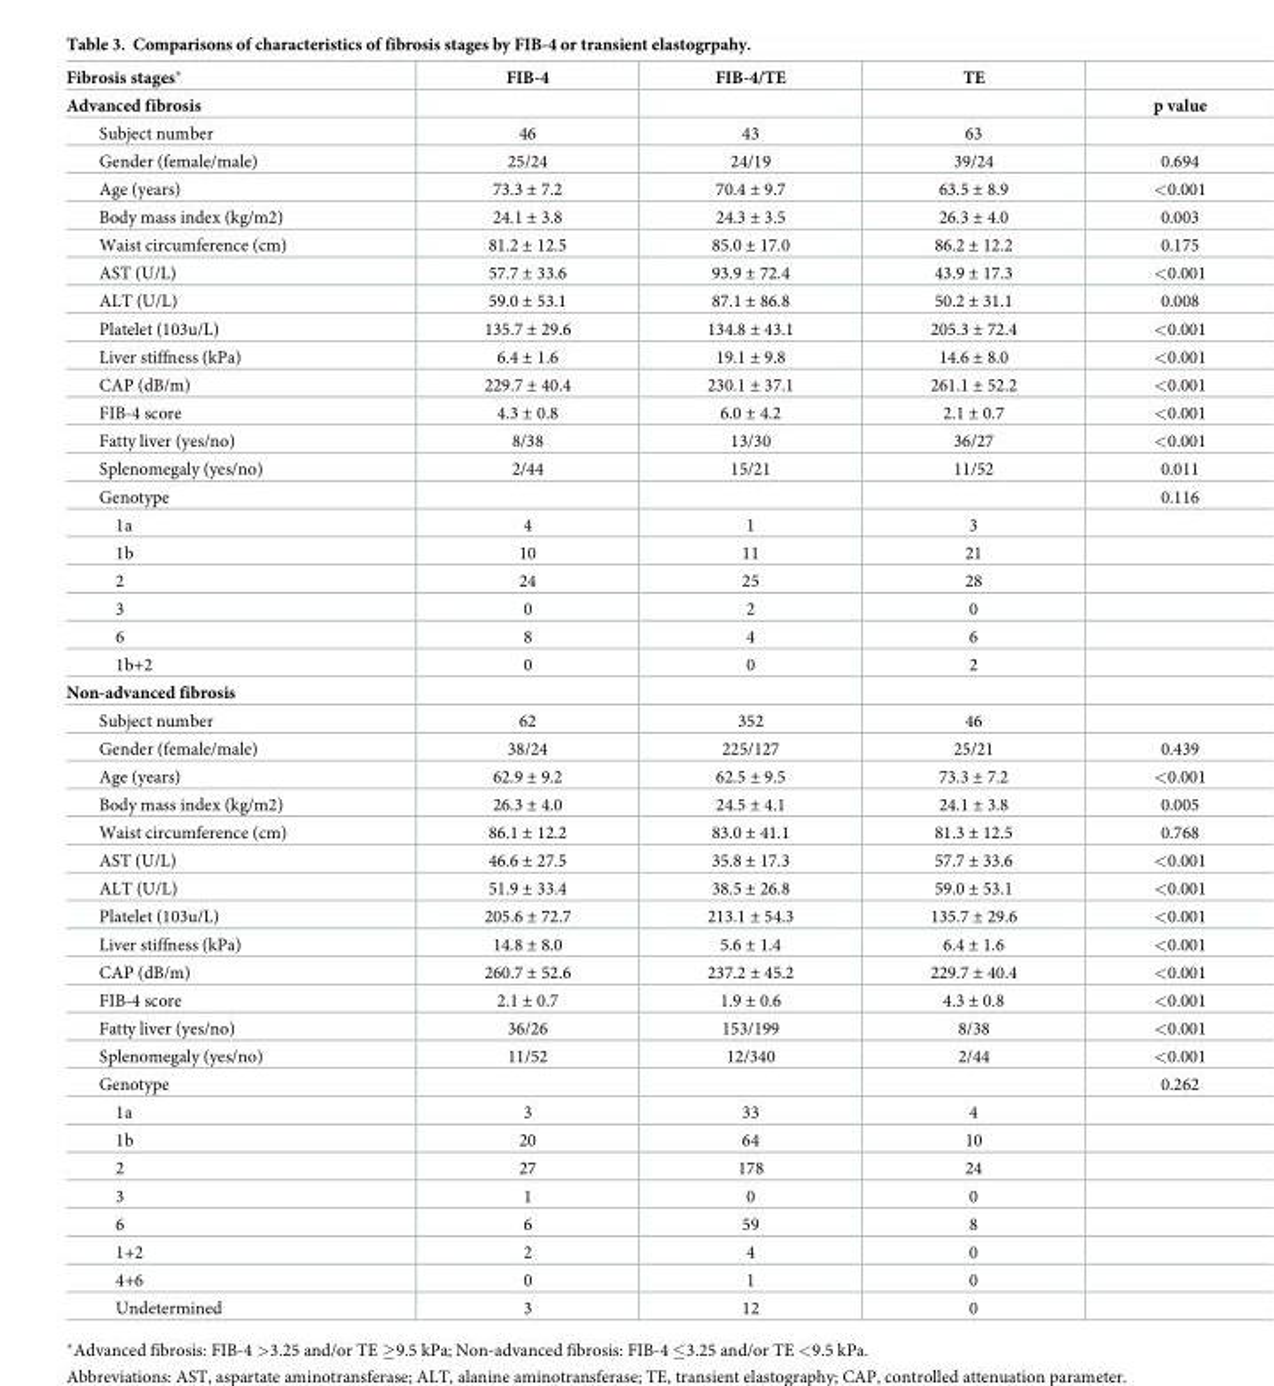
<table><thead><tr><td rowspan="2">Fibrosis stages* Advanced fibrosis</td><td rowspan="2">FIB-4</td><td rowspan="2">FIB-4/TE</td><td rowspan="2">TE</td><td rowspan="2">p value</td></tr><tr></tr></thead><tbody><tr><td>Subject number</td><td>46</td><td>43</td><td>63</td><td></td></tr><tr><td>Gender (female/male)</td><td>25/24</td><td>24/19</td><td>39/24</td><td>0.694</td></tr><tr><td>Age (years)</td><td>73.3 ± 7.2</td><td>70.4 ± 9.7</td><td>63.5 ± 8.9</td><td>&lt;0.001</td></tr><tr><td>Body mass index (kg/m2)</td><td>24.1 ± 3.8</td><td>24.3 ± 3.5</td><td>26.3 ± 4.0</td><td>0.003</td></tr><tr><td>Waist circumference (cm)</td><td>81.2 ± 12.5</td><td>85.0 ± 17.0</td><td>86.2 ± 12.2</td><td>0.175</td></tr><tr><td>AST (U/L)</td><td>57.7 ± 33.6</td><td>93.9 ± 72.4</td><td>43.9 ± 17.3</td><td>&lt;0.001</td></tr><tr><td>ALT (U/L)</td><td>59.0 ± 53.1</td><td>87.1 ± 86.8</td><td>50.2 ± 31.1</td><td>0.008</td></tr><tr><td>Platelet (103u/L)</td><td>135.7 ± 29.6</td><td>134.8 ± 43.1</td><td>205.3 ± 72.4</td><td>&lt;0.001</td></tr><tr><td>Liver stiffness (kPa)</td><td>6.4 ± 1.6</td><td>19.1 ± 9.8</td><td>14.6 ± 8.0</td><td>&lt;0.001</td></tr><tr><td>CAP (dB/m)</td><td>229.7 ± 40.4</td><td>230.1 ± 37.1</td><td>261.1 ± 52.2</td><td>&lt;0.001</td></tr><tr><td>FIB-4 score</td><td>4.3 ± 0.8</td><td>6.0 ± 4.2</td><td>2.1 ± 0.7</td><td>&lt;0.001</td></tr><tr><td>Fatty liver (yes/no)</td><td>8/38</td><td>13/30</td><td>36/27</td><td>&lt;0.001</td></tr><tr><td>Splenomegaly (yes/no)</td><td>2/44</td><td>15/21</td><td>11/52</td><td>0.011</td></tr><tr><td>Genotype</td><td></td><td></td><td></td><td>0.116</td></tr><tr><td>1a</td><td>4</td><td>1</td><td>3</td><td></td></tr><tr><td>1b</td><td>10</td><td>11</td><td>21</td><td></td></tr><tr><td>2</td><td>24</td><td>25</td><td>28</td><td></td></tr><tr><td>3</td><td>0</td><td>2</td><td>0</td><td></td></tr><tr><td>6</td><td>8</td><td>4</td><td>6</td><td></td></tr><tr><td>1b+2</td><td>0</td><td>0</td><td>2</td><td></td></tr><tr><td colspan="5">Non-advanced fibrosis</td></tr><tr><td>Subject number</td><td>62</td><td>352</td><td>46</td><td></td></tr><tr><td>Gender (female/male)</td><td>38/24</td><td>225/127</td><td>25/21</td><td>0.439</td></tr><tr><td>Age (years)</td><td>62.9 ± 9.2</td><td>62.5 ± 9.5</td><td>73.3 ± 7.2</td><td>&lt;0.001</td></tr><tr><td>Body mass index (kg/m2)</td><td>26.3 ± 4.0</td><td>24.5 ± 4.1</td><td>24.1 ± 3.8</td><td>0.005</td></tr><tr><td>Waist circumference (cm)</td><td>86.1 ± 12.2</td><td>83.0 ± 41.1</td><td>81.3 ± 12.5</td><td>0.768</td></tr><tr><td>AST (U/L)</td><td>46.6 ± 27.5</td><td>35.8 ± 17.3</td><td>57.7 ± 33.6</td><td>&lt;0.001</td></tr><tr><td>ALT (U/L)</td><td>51.9 ± 33.4</td><td>38.5 ± 26.8</td><td>59.0 ± 53.1</td><td>&lt;0.001</td></tr><tr><td>Platelet (103u/L)</td><td>205.6 ± 72.7</td><td>213.1 ± 54.3</td><td>135.7 ± 29.6</td><td>&lt;0.001</td></tr><tr><td>Liver stiffness (kPa)</td><td>14.8 ± 8.0</td><td>5.6 ± 1.4</td><td>6.4 ± 1.6</td><td>&lt;0.001</td></tr><tr><td>CAP (dB/m)</td><td>260.7 ± 52.6</td><td>237.2 ± 45.2</td><td>229.7 ± 40.4</td><td>&lt;0.001</td></tr><tr><td>FIB-4 score</td><td>2.1 ± 0.7</td><td>1.9 ± 0.6</td><td>4.3 ± 0.8</td><td>&lt;0.001</td></tr><tr><td>Fatty liver (yes/no)</td><td>36/26</td><td>153/199</td><td>8/38</td><td>&lt;0.001</td></tr><tr><td>Splenomegaly (yes/no)</td><td>11/52</td><td>12/340</td><td>2/44</td><td>&lt;0.001</td></tr><tr><td>Genotype</td><td></td><td></td><td></td><td>0.262</td></tr><tr><td>1a</td><td>3</td><td>33</td><td>4</td><td></td></tr><tr><td>1b</td><td>20</td><td>64</td><td>10</td><td></td></tr><tr><td>2</td><td>27</td><td>178</td><td>24</td><td></td></tr><tr><td>3</td><td>1</td><td>0</td><td>0</td><td></td></tr><tr><td>6</td><td>6</td><td>59</td><td>8</td><td></td></tr><tr><td>1+2</td><td>2</td><td>4</td><td>0</td><td></td></tr><tr><td>4+6</td><td>0</td><td>1</td><td>0</td><td></td></tr><tr><td>Undetermined</td><td>3</td><td>12</td><td>0</td><td></td></tr></tbody></table>